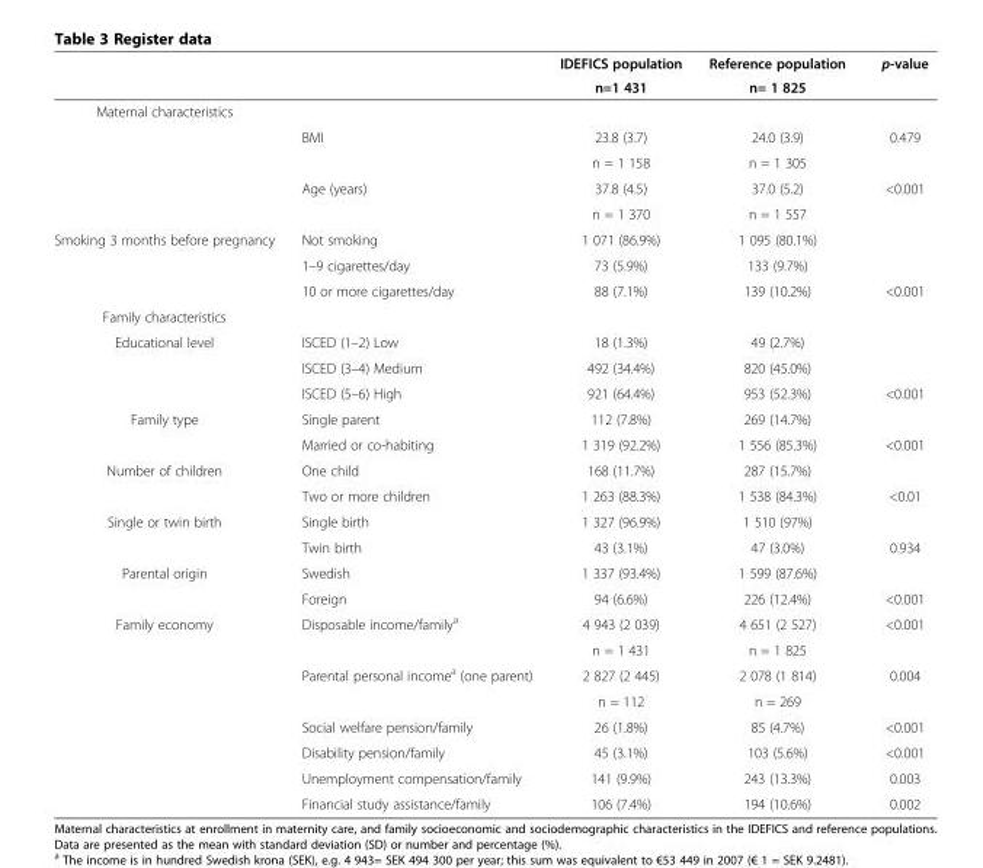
<table><thead><tr><td rowspan="2"></td><td rowspan="2"></td><td rowspan="2">IDEFICS population n=1 431</td><td rowspan="2">Reference population n= 1 825</td><td rowspan="2">p-value</td></tr><tr></tr></thead><tbody><tr><td colspan="5">Maternal characteristics</td></tr><tr><td rowspan="2"></td><td rowspan="2">BMI</td><td>23.8 (3.7)</td><td>24.0 (3.9)</td><td rowspan="2">0.479</td></tr><tr><td>n = 1 158</td><td>n = 1 305</td></tr><tr><td rowspan="2"></td><td rowspan="2">Age (years)</td><td>37.8 (4.5)</td><td>37.0 (5.2)</td><td rowspan="2">&lt;0.001</td></tr><tr><td>n = 1 370</td><td>n = 1 557</td></tr><tr><td rowspan="3">Smoking 3 months before pregnancy</td><td>Not smoking</td><td>1 071 (86.9%)</td><td>1 095 (80.1%)</td><td></td></tr><tr><td>1–9 cigarettes/day</td><td>73 (5.9%)</td><td>133 (9.7%)</td><td></td></tr><tr><td>10 or more cigarettes/day</td><td>88 (7.1%)</td><td>139 (10.2%)</td><td>&lt;0.001</td></tr><tr><td colspan="5">Family characteristics</td></tr><tr><td rowspan="3">Educational level</td><td>ISCED (1–2) Low</td><td>18 (1.3%)</td><td>49 (2.7%)</td><td></td></tr><tr><td>ISCED (3–4) Medium</td><td>492 (34.4%)</td><td>820 (45.0%)</td><td></td></tr><tr><td>ISCED (5–6) High</td><td>921 (64.4%)</td><td>953 (52.3%)</td><td>&lt;0.001</td></tr><tr><td rowspan="2">Family type</td><td>Single parent</td><td>112 (7.8%)</td><td>269 (14.7%)</td><td></td></tr><tr><td>Married or co-habiting</td><td>1 319 (92.2%)</td><td>1 556 (85.3%)</td><td>&lt;0.001</td></tr><tr><td rowspan="2">Number of children</td><td>One child</td><td>168 (11.7%)</td><td>287 (15.7%)</td><td></td></tr><tr><td>Two or more children</td><td>1 263 (88.3%)</td><td>1 538 (84.3%)</td><td>&lt;0.01</td></tr><tr><td rowspan="2">Single or twin birth</td><td>Single birth</td><td>1 327 (96.9%)</td><td>1 510 (97%)</td><td></td></tr><tr><td>Twin birth</td><td>43 (3.1%)</td><td>47 (3.0%)</td><td>0.934</td></tr><tr><td rowspan="2">Parental origin</td><td>Swedish</td><td>1 337 (93.4%)</td><td>1 599 (87.6%)</td><td></td></tr><tr><td>Foreign</td><td>94 (6.6%)</td><td>226 (12.4%)</td><td>&lt;0.001</td></tr><tr><td rowspan="8">Family economy</td><td rowspan="2">Disposable income/family<sup>a</sup></td><td>4 943 (2 039)</td><td>4 651 (2 527)</td><td rowspan="2">&lt;0.001</td></tr><tr><td>n = 1 431</td><td>n = 1 825</td></tr><tr><td rowspan="2">Parental personal income<sup>a</sup> (one parent)</td><td>2 827 (2 445)</td><td>2 078 (1 814)</td><td rowspan="2">0.004</td></tr><tr><td>n = 112</td><td>n = 269</td></tr><tr><td>Social welfare pension/family</td><td>26 (1.8%)</td><td>85 (4.7%)</td><td>&lt;0.001</td></tr><tr><td>Disability pension/family</td><td>45 (3.1%)</td><td>103 (5.6%)</td><td>&lt;0.001</td></tr><tr><td>Unemployment compensation/family</td><td>141 (9.9%)</td><td>243 (13.3%)</td><td>0.003</td></tr><tr><td>Financial study assistance/family</td><td>106 (7.4%)</td><td>194 (10.6%)</td><td>0.002</td></tr></tbody></table>